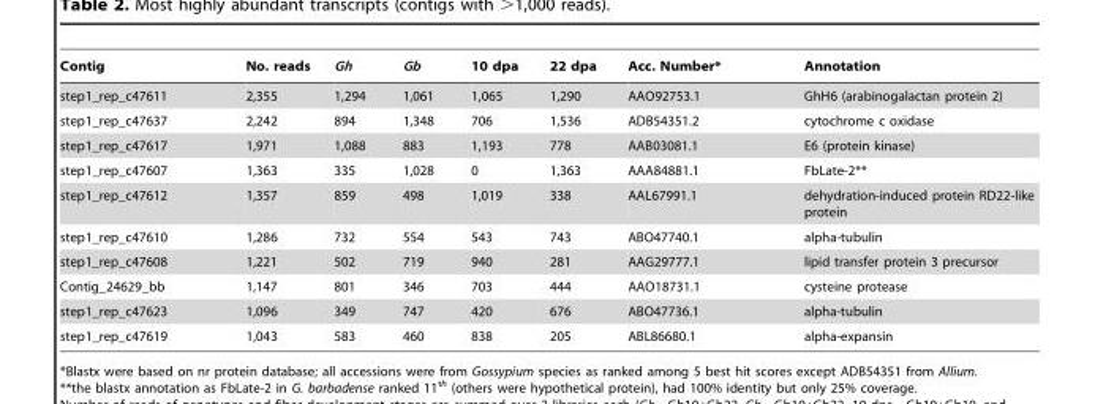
<table><thead><tr><td>Contig</td><td>No. reads</td><td>Gh</td><td>Gb</td><td>10 dpa</td><td>22 dpa</td><td>Acc. Number*</td><td>Annotation</td></tr></thead><tbody><tr><td>step1_rep_c47611</td><td>2,355</td><td>1,294</td><td>1,061</td><td>1,065</td><td>1,290</td><td>AAO92753.1</td><td>GhH6 (arabinogalactan protein 2)</td></tr><tr><td>step1_rep_c47637</td><td>2,242</td><td>894</td><td>1,348</td><td>706</td><td>1,536</td><td>ADB54351.2</td><td>cytochrome c oxidase</td></tr><tr><td>step1_rep_c47617</td><td>1,971</td><td>1,088</td><td>883</td><td>1,193</td><td>778</td><td>AAB03081.1</td><td>E6 (protein kinase)</td></tr><tr><td>step1_rep_c47607</td><td>1,363</td><td>335</td><td>1,028</td><td>0</td><td>1,363</td><td>AAA84881.1</td><td>FbLate-2**</td></tr><tr><td>step1_rep_c47612</td><td>1,357</td><td>859</td><td>498</td><td>1,019</td><td>338</td><td>AAL67991.1</td><td>dehydration-induced protein RD22-like protein</td></tr><tr><td>step1_rep_c47610</td><td>1,286</td><td>732</td><td>554</td><td>543</td><td>743</td><td>ABO47740.1</td><td>alpha-tubulin</td></tr><tr><td>step1_rep_c47608</td><td>1,221</td><td>502</td><td>719</td><td>940</td><td>281</td><td>AAG29777.1</td><td>lipid transfer protein 3 precursor</td></tr><tr><td>Contig_24629_bb</td><td>1,147</td><td>801</td><td>346</td><td>703</td><td>444</td><td>AAO18731.1</td><td>cysteine protease</td></tr><tr><td>step1_rep_c47623</td><td>1,096</td><td>349</td><td>747</td><td>420</td><td>676</td><td>ABO47736.1</td><td>alpha-tubulin</td></tr><tr><td>step1_rep_c47619</td><td>1,043</td><td>583</td><td>460</td><td>838</td><td>205</td><td>ABL86680.1</td><td>alpha-expansin</td></tr></tbody></table>